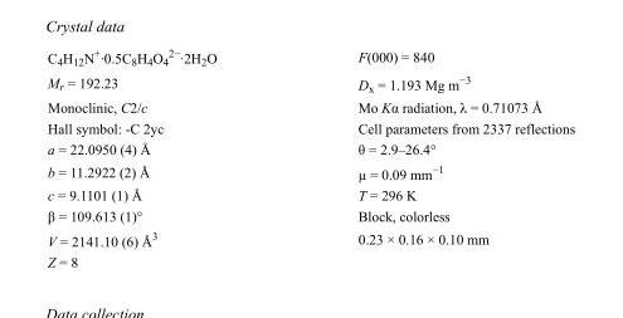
<table><tbody><tr><td>C<sub>4</sub>H<sub>12</sub>N<sup>+</sup>·0.5C<sub>8</sub>H<sub>4</sub>O<sub>4</sub> <sup>2−</sup>·2H<sub>2</sub>O</td><td>F(000) = 840</td></tr><tr><td>M<sub>r</sub> = 192.23</td><td>D<sub>x</sub> = 1.193 Mg m<sup>−3</sup></td></tr><tr><td>Monoclinic, C2/c</td><td>Mo Kα radiation, λ = 0.71073 Å</td></tr><tr><td>Hall symbol: -C 2yc</td><td>Cell parameters from 2337 reflections</td></tr><tr><td>a = 22.0950 (4) Å</td><td>θ = 2.9–26.4°</td></tr><tr><td>b = 11.2922 (2) Å</td><td>µ = 0.09 mm<sup>−1</sup></td></tr><tr><td>c = 9.1101 (1) Å</td><td>T = 296 K</td></tr><tr><td>β = 109.613 (1)°</td><td>Block, colorless</td></tr><tr><td>V = 2141.10 (6) Å<sup>3</sup></td><td>0.23 × 0.16 × 0.10 mm</td></tr><tr><td>Z = 8</td><td></td></tr></tbody></table>